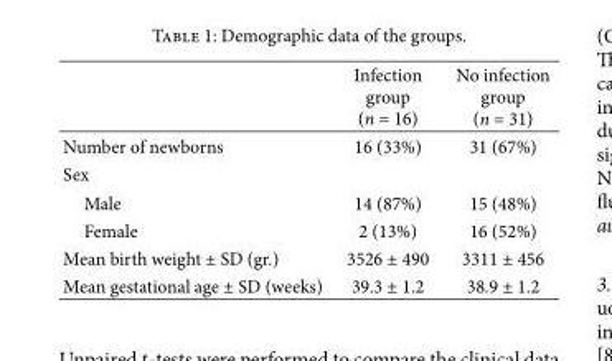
<table><thead><tr><td></td><td>Infection group (n = 16)</td><td>No infection group (n = 31)</td></tr></thead><tbody><tr><td>Number of newborns</td><td>16 (33%)</td><td>31 (67%)</td></tr><tr><td colspan="3">Sex</td></tr><tr><td>Male</td><td>14 (87%)</td><td>15 (48%)</td></tr><tr><td>Female</td><td>2 (13%)</td><td>16 (52%)</td></tr><tr><td>Mean birth weight ± SD (gr.)</td><td>3526 ± 490</td><td>3311 ± 456</td></tr><tr><td>Mean gestational age ± SD (weeks)</td><td>39.3 ± 1.2</td><td>38.9 ± 1.2</td></tr></tbody></table>